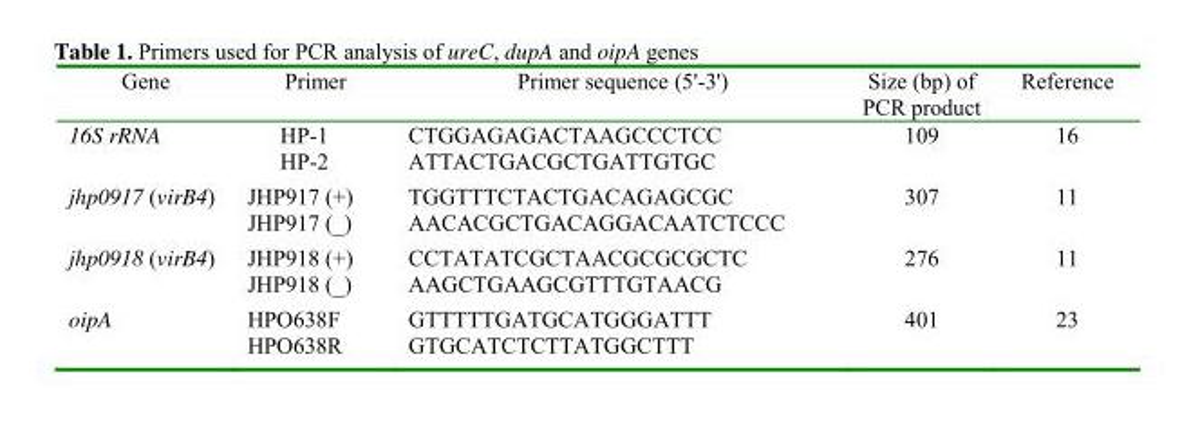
<table><thead><tr><td>Gene</td><td>Primer</td><td>Primer sequence (5&#x27;-3&#x27;)</td><td>Size (bp) of PCR product</td><td>Reference</td></tr></thead><tbody><tr><td>16S rRNA</td><td>HP-1 HP-2</td><td>CTGGAGAGACTAAGCCCTCC ATTACTGACGCTGATTGTGC</td><td>109</td><td>16</td></tr><tr><td>jhp0917 (virB4)</td><td>JHP917 (+) JHP917 (_)</td><td>TGGTTTCTACTGACAGAGCGC AACACGCTGACAGGACAATCTCCC</td><td>307</td><td>11</td></tr><tr><td>jhp0918 (virB4)</td><td>JHP918 (+) JHP918 (_)</td><td>CCTATATCGCTAACGCGCGCTC AAGCTGAAGCGTTTGTAACG</td><td>276</td><td>11</td></tr><tr><td>oipA</td><td>HPO638F HPO638R</td><td>GTTTTTGATGCATGGGATTT GTGCATCTCTTATGGCTTT</td><td>401</td><td>23</td></tr></tbody></table>